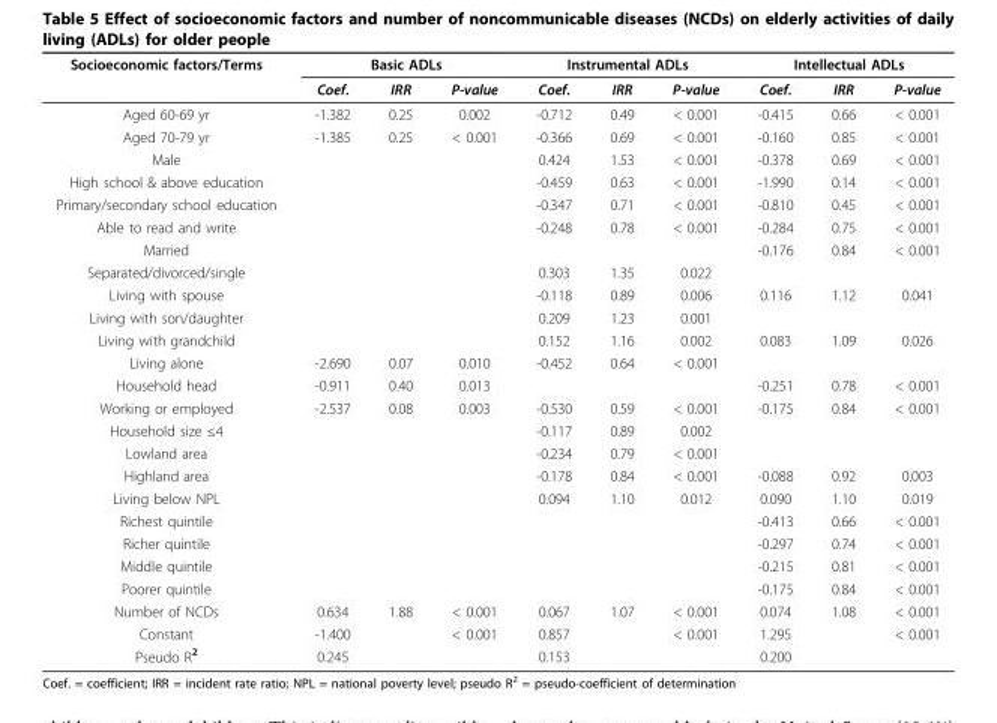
<table><thead><tr><td rowspan="2">Socioeconomic factors/Terms</td><td colspan="3">Basic ADLs</td><td colspan="3">Instrumental ADLs</td><td colspan="3">Intellectual ADLs</td></tr><tr><td>Coef.</td><td>IRR</td><td>P-value</td><td>Coef.</td><td>IRR</td><td>P-value</td><td>Coef.</td><td>IRR</td><td>P-value</td></tr></thead><tbody><tr><td>Aged 60-69 yr</td><td>-1.382</td><td>0.25</td><td>0.002</td><td>-0.712</td><td>0.49</td><td>&lt; 0.001</td><td>-0.415</td><td>0.66</td><td>&lt; 0.001</td></tr><tr><td>Aged 70-79 yr</td><td>-1.385</td><td>0.25</td><td>&lt; 0.001</td><td>-0.366</td><td>0.69</td><td>&lt; 0.001</td><td>-0.160</td><td>0.85</td><td>&lt; 0.001</td></tr><tr><td>Male</td><td></td><td></td><td></td><td>0.424</td><td>1.53</td><td>&lt; 0.001</td><td>-0.378</td><td>0.69</td><td>&lt; 0.001</td></tr><tr><td>High school &amp; above education</td><td></td><td></td><td></td><td>-0.459</td><td>0.63</td><td>&lt; 0.001</td><td>-1.990</td><td>0.14</td><td>&lt; 0.001</td></tr><tr><td>Primary/secondary school education</td><td></td><td></td><td></td><td>-0.347</td><td>0.71</td><td>&lt; 0.001</td><td>-0.810</td><td>0.45</td><td>&lt; 0.001</td></tr><tr><td>Able to read and write</td><td></td><td></td><td></td><td>-0.248</td><td>0.78</td><td>&lt; 0.001</td><td>-0.284</td><td>0.75</td><td>&lt; 0.001</td></tr><tr><td>Married</td><td></td><td></td><td></td><td></td><td></td><td></td><td>-0.176</td><td>0.84</td><td>&lt; 0.001</td></tr><tr><td>Separated/divorced/single</td><td></td><td></td><td></td><td>0.303</td><td>1.35</td><td>0.022</td><td></td><td></td><td></td></tr><tr><td>Living with spouse</td><td></td><td></td><td></td><td>-0.118</td><td>0.89</td><td>0.006</td><td>0.116</td><td>1.12</td><td>0.041</td></tr><tr><td>Living with son/daughter</td><td></td><td></td><td></td><td>0.209</td><td>1.23</td><td>0.001</td><td></td><td></td><td></td></tr><tr><td>Living with grandchild</td><td></td><td></td><td></td><td>0.152</td><td>1.16</td><td>0.002</td><td>0.083</td><td>1.09</td><td>0.026</td></tr><tr><td>Living alone</td><td>-2.690</td><td>0.07</td><td>0.010</td><td>-0.452</td><td>0.64</td><td>&lt; 0.001</td><td></td><td></td><td></td></tr><tr><td>Household head</td><td>-0.911</td><td>0.40</td><td>0.013</td><td></td><td></td><td></td><td>-0.251</td><td>0.78</td><td>&lt; 0.001</td></tr><tr><td>Working or employed</td><td>-2.537</td><td>0.08</td><td>0.003</td><td>-0.530</td><td>0.59</td><td>&lt; 0.001</td><td>-0.175</td><td>0.84</td><td>&lt; 0.001</td></tr><tr><td>Household size ≤4</td><td></td><td></td><td></td><td>-0.117</td><td>0.89</td><td>0.002</td><td></td><td></td><td></td></tr><tr><td>Lowland area</td><td></td><td></td><td></td><td>-0.234</td><td>0.79</td><td>&lt; 0.001</td><td></td><td></td><td></td></tr><tr><td>Highland area</td><td></td><td></td><td></td><td>-0.178</td><td>0.84</td><td>&lt; 0.001</td><td>-0.088</td><td>0.92</td><td>0.003</td></tr><tr><td>Living below NPL</td><td></td><td></td><td></td><td>0.094</td><td>1.10</td><td>0.012</td><td>0.090</td><td>1.10</td><td>0.019</td></tr><tr><td>Richest quintile</td><td></td><td></td><td></td><td></td><td></td><td></td><td>-0.413</td><td>0.66</td><td>&lt; 0.001</td></tr><tr><td>Richer quintile</td><td></td><td></td><td></td><td></td><td></td><td></td><td>-0.297</td><td>0.74</td><td>&lt; 0.001</td></tr><tr><td>Middle quintile</td><td></td><td></td><td></td><td></td><td></td><td></td><td>-0.215</td><td>0.81</td><td>&lt; 0.001</td></tr><tr><td>Poorer quintile</td><td></td><td></td><td></td><td></td><td></td><td></td><td>-0.175</td><td>0.84</td><td>&lt; 0.001</td></tr><tr><td>Number of NCDs</td><td>0.634</td><td>1.88</td><td>&lt; 0.001</td><td>0.067</td><td>1.07</td><td>&lt; 0.001</td><td>0.074</td><td>1.08</td><td>&lt; 0.001</td></tr><tr><td>Constant</td><td>-1.400</td><td></td><td>&lt; 0.001</td><td>0.857</td><td></td><td>&lt; 0.001</td><td>1.295</td><td></td><td>&lt; 0.001</td></tr><tr><td>Pseudo R<sup>2</sup></td><td>0.245</td><td></td><td></td><td>0.153</td><td></td><td></td><td>0.200</td><td></td><td></td></tr></tbody></table>